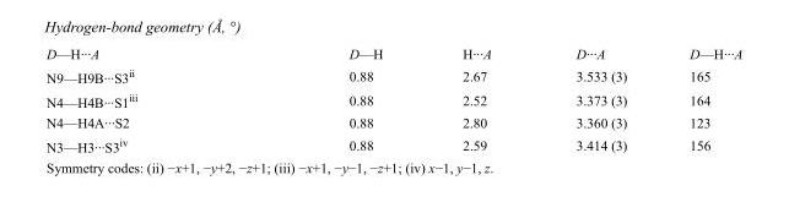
<table><tbody><tr><td>D—H···A</td><td>D—H</td><td>H···A</td><td>D···A</td><td>D—H···A</td></tr><tr><td>N9—H9B···S3<sup>ii</sup></td><td>0.88</td><td>2.67</td><td>3.533 (3)</td><td>165</td></tr><tr><td>N4—H4B···S1<sup>iii</sup></td><td>0.88</td><td>2.52</td><td>3.373 (3)</td><td>164</td></tr><tr><td>N4—H4A···S2</td><td>0.88</td><td>2.80</td><td>3.360 (3)</td><td>123</td></tr><tr><td>N3—H3···S3<sup>iv</sup></td><td>0.88</td><td>2.59</td><td>3.414 (3)</td><td>156</td></tr></tbody></table>